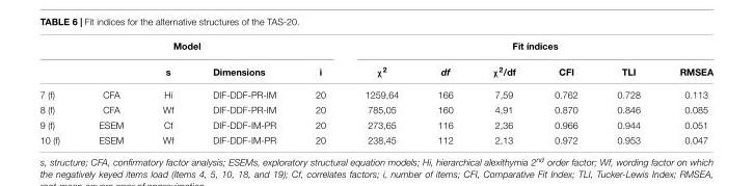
<table><thead><tr><td colspan="5">Model</td><td colspan="6">Fit índices</td></tr><tr><td></td><td></td><td>s</td><td>Dimensions</td><td>i</td><td>χ<sup>2</sup></td><td>df</td><td>χ<sup>2</sup>/df</td><td>CFI</td><td>TLI</td><td>RMSEA</td></tr></thead><tbody><tr><td>7 (f)</td><td>CFA</td><td>Hi</td><td>DIF-DDF-PR-IM</td><td>20</td><td>1259,64</td><td>166</td><td>7,59</td><td>0.762</td><td>0.728</td><td>0.113</td></tr><tr><td>8 (f)</td><td>CFA</td><td>Wf</td><td>DIF-DDF-PR-IM</td><td>20</td><td>785,05</td><td>160</td><td>4,91</td><td>0.870</td><td>0.846</td><td>0.085</td></tr><tr><td>9 (f)</td><td>ESEM</td><td>Cf</td><td>DIF-DDF-IM-PR</td><td>20</td><td>273,65</td><td>116</td><td>2,36</td><td>0.966</td><td>0.944</td><td>0.051</td></tr><tr><td>10 (f)</td><td>ESEM</td><td>Wf</td><td>DIF-DDF-IM-PR</td><td>20</td><td>238,45</td><td>112</td><td>2,13</td><td>0.972</td><td>0.953</td><td>0.047</td></tr></tbody></table>